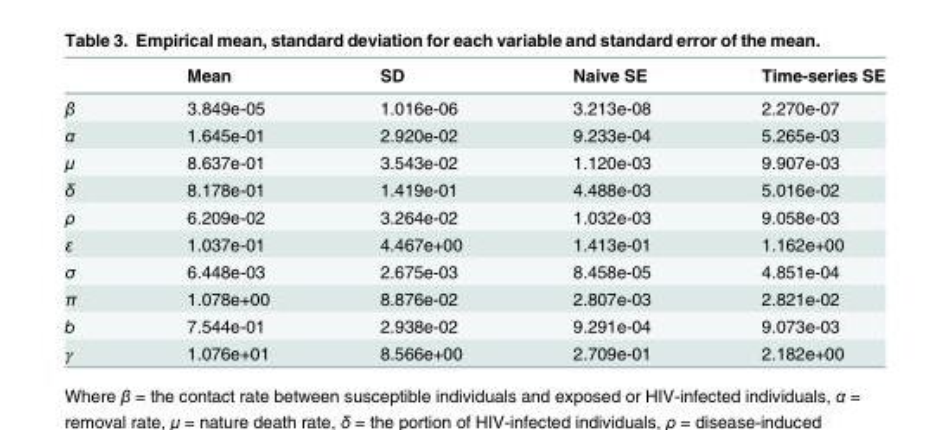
<table><thead><tr><td></td><td>Mean</td><td>SD</td><td>Naive SE</td><td>Time-series SE</td></tr></thead><tbody><tr><td>β</td><td>3.849e-05</td><td>1.016e-06</td><td>3.213e-08</td><td>2.270e-07</td></tr><tr><td>α</td><td>1.645e-01</td><td>2.920e-02</td><td>9.233e-04</td><td>5.265e-03</td></tr><tr><td>μ</td><td>8.637e-01</td><td>3.543e-02</td><td>1.120e-03</td><td>9.907e-03</td></tr><tr><td>δ</td><td>8.178e-01</td><td>1.419e-01</td><td>4.488e-03</td><td>5.016e-02</td></tr><tr><td>ρ</td><td>6.209e-02</td><td>3.264e-02</td><td>1.032e-03</td><td>9.058e-03</td></tr><tr><td>ε</td><td>1.037e-01</td><td>4.467e+00</td><td>1.413e-01</td><td>1.162e+00</td></tr><tr><td>σ</td><td>6.448e-03</td><td>2.675e-03</td><td>8.458e-05</td><td>4.851e-04</td></tr><tr><td>π</td><td>1.078e+00</td><td>8.876e-02</td><td>2.807e-03</td><td>2.821e-02</td></tr><tr><td>b</td><td>7.544e-01</td><td>2.938e-02</td><td>9.291e-04</td><td>9.073e-03</td></tr><tr><td>γ</td><td>1.076e+01</td><td>8.566e+00</td><td>2.709e-01</td><td>2.182e+00</td></tr></tbody></table>